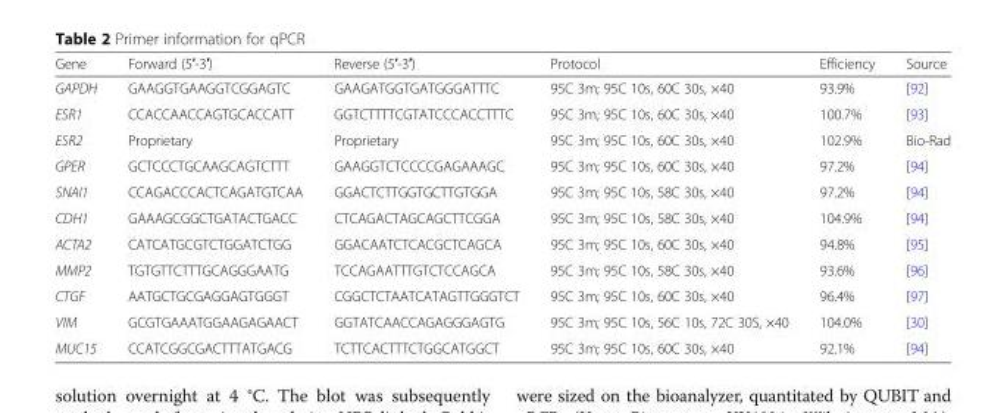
<table><thead><tr><td>Gene</td><td>Forward (5′-3′)</td><td>Reverse (5′-3′)</td><td>Protocol</td><td>Efficiency</td><td>Source</td></tr></thead><tbody><tr><td>GAPDH</td><td>GAAGGTGAAGGTCGGAGTC</td><td>GAAGATGGTGATGGGATTTC</td><td>95C 3m; 95C 10s, 60C 30s, ×40</td><td>93.9%</td><td>[92]</td></tr><tr><td>ESR1</td><td>CCACCAACCAGTGCACCATT</td><td>GGTCTTTTCGTATCCCACCTTTC</td><td>95C 3m; 95C 10s, 60C 30s, ×40</td><td>100.7%</td><td>[93]</td></tr><tr><td>ESR2</td><td>Proprietary</td><td>Proprietary</td><td>95C 3m; 95C 10s, 60C 30s, ×40</td><td>102.9%</td><td>Bio-Rad</td></tr><tr><td>GPER</td><td>GCTCCCTGCAAGCAGTCTTT</td><td>GAAGGTCTCCCCGAGAAAGC</td><td>95C 3m; 95C 10s, 60C 30s, ×40</td><td>97.2%</td><td>[94]</td></tr><tr><td>SNAI1</td><td>CCAGACCCACTCAGATGTCAA</td><td>GGACTCTTGGTGCTTGTGGA</td><td>95C 3m; 95C 10s, 58C 30s, ×40</td><td>97.2%</td><td>[94]</td></tr><tr><td>CDH1</td><td>GAAAGCGGCTGATACTGACC</td><td>CTCAGACTAGCAGCTTCGGA</td><td>95C 3m; 95C 10s, 58C 30s, ×40</td><td>104.9%</td><td>[94]</td></tr><tr><td>ACTA2</td><td>CATCATGCGTCTGGATCTGG</td><td>GGACAATCTCACGCTCAGCA</td><td>95C 3m; 95C 10s, 60C 30s, ×40</td><td>94.8%</td><td>[95]</td></tr><tr><td>MMP2</td><td>TGTGTTCTTTGCAGGGAATG</td><td>TCCAGAATTTGTCTCCAGCA</td><td>95C 3m; 95C 10s, 58C 30s, ×40</td><td>93.6%</td><td>[96]</td></tr><tr><td>CTGF</td><td>AATGCTGCGAGGAGTGGGT</td><td>CGGCTCTAATCATAGTTGGGTCT</td><td>95C 3m; 95C 10s, 60C 30s, ×40</td><td>96.4%</td><td>[97]</td></tr><tr><td>VIM</td><td>GCGTGAAATGGAAGAGAACT</td><td>GGTATCAACCAGAGGGAGTG</td><td>95C 3m; 95C 10s, 56C 10s, 72C 30S, ×40</td><td>104.0%</td><td>[30]</td></tr><tr><td>MUC15</td><td>CCATCGGCGACTTTATGACG</td><td>TCTTCACTTTCTGGCATGGCT</td><td>95C 3m; 95C 10s, 60C 30s, ×40</td><td>92.1%</td><td>[94]</td></tr></tbody></table>